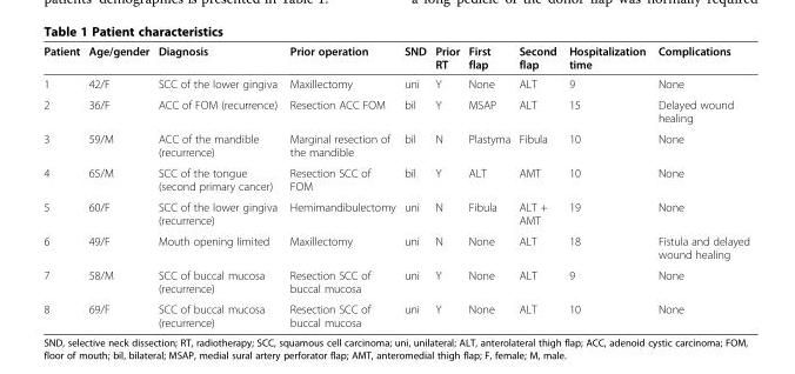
<table><thead><tr><td>Patient</td><td>Age/gender</td><td>Diagnosis</td><td>Prior operation</td><td>SND</td><td>Prior RT</td><td>First flap</td><td>Second flap</td><td>Hospitalization time</td><td>Complications</td></tr></thead><tbody><tr><td>1</td><td>42/F</td><td>SCC of the lower gingiva</td><td>Maxillectomy</td><td>uni</td><td>Y</td><td>None</td><td>ALT</td><td>9</td><td>None</td></tr><tr><td>2</td><td>36/F</td><td>ACC of FOM (recurrence)</td><td>Resection ACC FOM</td><td>bil</td><td>Y</td><td>MSAP</td><td>ALT</td><td>15</td><td>Delayed wound healing</td></tr><tr><td>3</td><td>59/M</td><td>ACC of the mandible (recurrence)</td><td>Marginal resection of the mandible</td><td>bil</td><td>N</td><td>Plastyma</td><td>Fibula</td><td>10</td><td>None</td></tr><tr><td>4</td><td>65/M</td><td>SCC of the tongue (second primary cancer)</td><td>Resection SCC of FOM</td><td>bil</td><td>Y</td><td>ALT</td><td>AMT</td><td>10</td><td>None</td></tr><tr><td>5</td><td>60/F</td><td>SCC of the lower gingiva (recurrence)</td><td>Hemimandibulectomy</td><td>uni</td><td>N</td><td>Fibula</td><td>ALT + AMT</td><td>19</td><td>None</td></tr><tr><td>6</td><td>49/F</td><td>Mouth opening limited</td><td>Maxillectomy</td><td>uni</td><td>N</td><td>None</td><td>ALT</td><td>18</td><td>Fistula and delayed wound healing</td></tr><tr><td>7</td><td>58/M</td><td>SCC of buccal mucosa (recurrence)</td><td>Resection SCC of buccal mucosa</td><td>uni</td><td>Y</td><td>None</td><td>ALT</td><td>9</td><td>None</td></tr><tr><td>8</td><td>69/F</td><td>SCC of buccal mucosa (recurrence)</td><td>Resection SCC of buccal mucosa</td><td>uni</td><td>Y</td><td>None</td><td>ALT</td><td>10</td><td>None</td></tr></tbody></table>